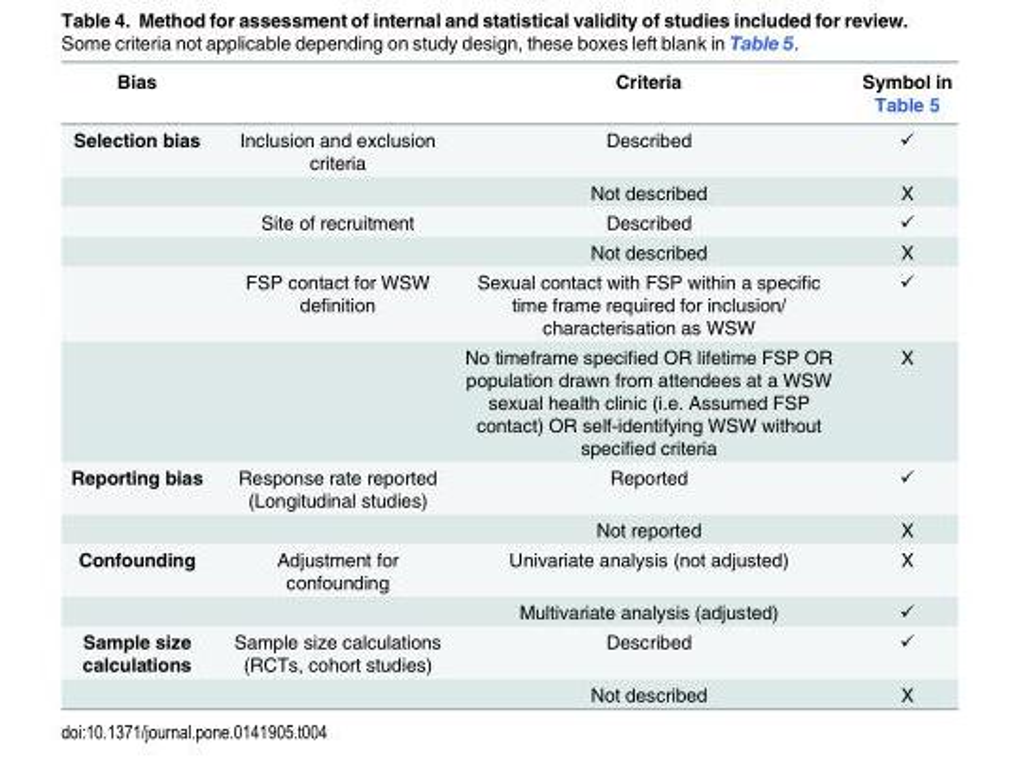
<table><thead><tr><td>Bias</td><td></td><td>Criteria</td><td>Symbol in Table 5</td></tr></thead><tbody><tr><td rowspan="6">Selection bias</td><td>Inclusion and exclusion criteria</td><td>Described</td><td>✓</td></tr><tr><td></td><td>Not described</td><td>X</td></tr><tr><td>Site of recruitment</td><td>Described</td><td>✓</td></tr><tr><td></td><td>Not described</td><td>X</td></tr><tr><td>FSP contact for WSW definition</td><td>Sexual contact with FSP within a specific time frame required for inclusion/ characterisation as WSW</td><td>✓</td></tr><tr><td></td><td>No timeframe specified OR lifetime FSP OR population drawn from attendees at a WSW sexual health clinic (i.e. Assumed FSP contact) OR self-identifying WSW without specified criteria</td><td>X</td></tr><tr><td rowspan="2">Reporting bias</td><td>Response rate reported (Longitudinal studies)</td><td>Reported</td><td>✓</td></tr><tr><td></td><td>Not reported</td><td>X</td></tr><tr><td rowspan="2">Confounding</td><td>Adjustment for confounding</td><td>Univariate analysis (not adjusted)</td><td>X</td></tr><tr><td></td><td>Multivariate analysis (adjusted)</td><td>✓</td></tr><tr><td rowspan="2">Sample size calculations</td><td>Sample size calculations (RCTs, cohort studies)</td><td>Described</td><td>✓</td></tr><tr><td></td><td>Not described</td><td>X</td></tr></tbody></table>